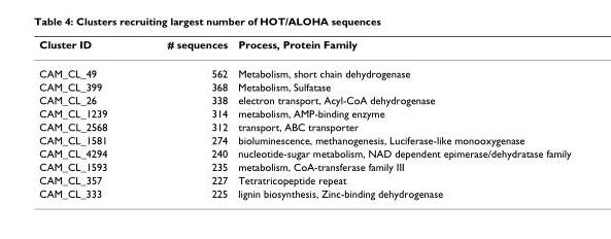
<table><thead><tr><td>Cluster ID</td><td># sequences</td><td>Process, Protein Family</td></tr></thead><tbody><tr><td>CAM_CL_49</td><td>562</td><td>Metabolism, short chain dehydrogenase</td></tr><tr><td>CAM_CL_399</td><td>368</td><td>Metabolism, Sulfatase</td></tr><tr><td>CAM_CL_26</td><td>338</td><td>electron transport, Acyl-CoA dehydrogenase</td></tr><tr><td>CAM_CL_1239</td><td>314</td><td>metabolism, AMP-binding enzyme</td></tr><tr><td>CAM_CL_2568</td><td>312</td><td>transport, ABC transporter</td></tr><tr><td>CAM_CL_1581</td><td>274</td><td>bioluminescence, methanogenesis, Luciferase-like monooxygenase</td></tr><tr><td>CAM_CL_4294</td><td>240</td><td>nucleotide-sugar metabolism, NAD dependent epimerase/dehydratase family</td></tr><tr><td>CAM_CL_1593</td><td>235</td><td>metabolism, CoA-transferase family III</td></tr><tr><td>CAM_CL_357</td><td>227</td><td>Tetratricopeptide repeat</td></tr><tr><td>CAM_CL_333</td><td>225</td><td>lignin biosynthesis, Zinc-binding dehydrogenase</td></tr></tbody></table>